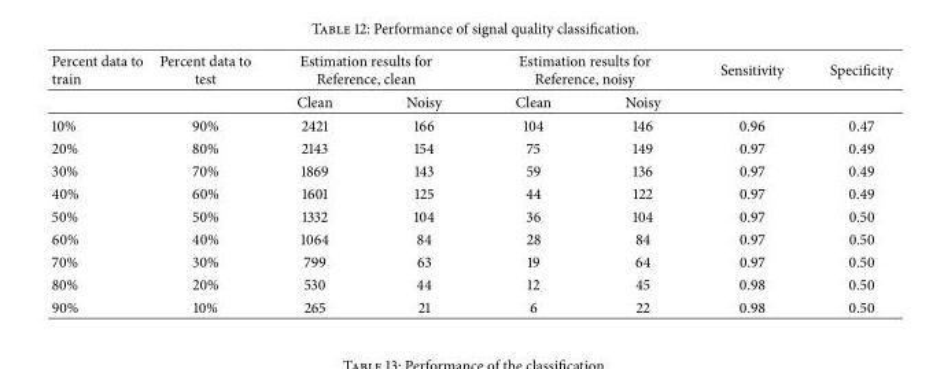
<table><thead><tr><td rowspan="2">Percent data to train</td><td rowspan="2">Percent data to test</td><td colspan="2">Estimation results for Reference, clean</td><td colspan="2">Estimation results for Reference, noisy</td><td rowspan="2">Sensitivity</td><td rowspan="2">Specificity</td></tr><tr><td>Clean</td><td>Noisy</td><td>Clean</td><td>Noisy</td></tr></thead><tbody><tr><td>10%</td><td>90%</td><td>2421</td><td>166</td><td>104</td><td>146</td><td>0.96</td><td>0.47</td></tr><tr><td>20%</td><td>80%</td><td>2143</td><td>154</td><td>75</td><td>149</td><td>0.97</td><td>0.49</td></tr><tr><td>30%</td><td>70%</td><td>1869</td><td>143</td><td>59</td><td>136</td><td>0.97</td><td>0.49</td></tr><tr><td>40%</td><td>60%</td><td>1601</td><td>125</td><td>44</td><td>122</td><td>0.97</td><td>0.49</td></tr><tr><td>50%</td><td>50%</td><td>1332</td><td>104</td><td>36</td><td>104</td><td>0.97</td><td>0.50</td></tr><tr><td>60%</td><td>40%</td><td>1064</td><td>84</td><td>28</td><td>84</td><td>0.97</td><td>0.50</td></tr><tr><td>70%</td><td>30%</td><td>799</td><td>63</td><td>19</td><td>64</td><td>0.97</td><td>0.50</td></tr><tr><td>80%</td><td>20%</td><td>530</td><td>44</td><td>12</td><td>45</td><td>0.98</td><td>0.50</td></tr><tr><td>90%</td><td>10%</td><td>265</td><td>21</td><td>6</td><td>22</td><td>0.98</td><td>0.50</td></tr></tbody></table>